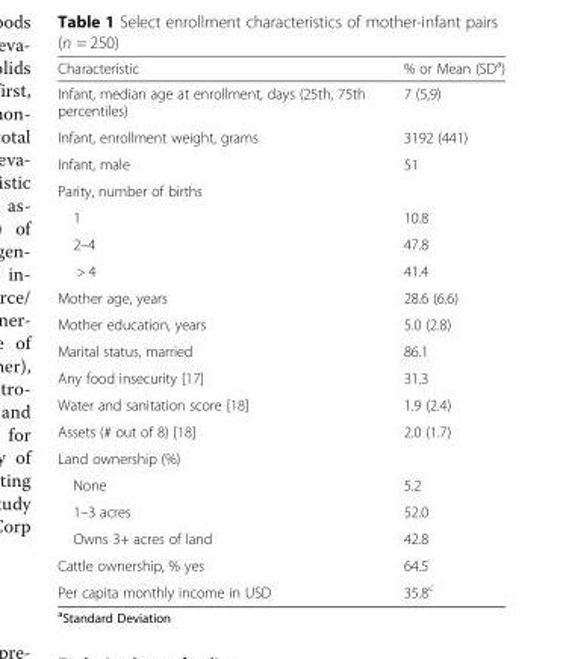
<table><thead><tr><td>Characteristic</td><td>% or Mean (SD<sup>a</sup>)</td></tr></thead><tbody><tr><td>Infant, median age at enrollment, days (25th, 75th percentiles)</td><td>7 (5,9)</td></tr><tr><td>Infant, enrollment weight, grams</td><td>3192 (441)</td></tr><tr><td>Infant, male</td><td>51</td></tr><tr><td colspan="2">Parity, number of births</td></tr><tr><td>1</td><td>10.8</td></tr><tr><td>2–4</td><td>47.8</td></tr><tr><td>&gt; 4</td><td>41.4</td></tr><tr><td>Mother age, years</td><td>28.6 (6.6)</td></tr><tr><td>Mother education, years</td><td>5.0 (2.8)</td></tr><tr><td>Marital status, married</td><td>86.1</td></tr><tr><td>Any food insecurity [17]</td><td>31.3</td></tr><tr><td>Water and sanitation score [18]</td><td>1.9 (2.4)</td></tr><tr><td>Assets (# out of 8) [18]</td><td>2.0 (1.7)</td></tr><tr><td colspan="2">Land ownership (%)</td></tr><tr><td>None</td><td>5.2</td></tr><tr><td>1–3 acres</td><td>52.0</td></tr><tr><td>Owns 3+ acres of land</td><td>42.8</td></tr><tr><td>Cattle ownership, % yes</td><td>64.5</td></tr><tr><td>Per capita monthly income in USD</td><td>35.8<sup>c</sup></td></tr></tbody></table>